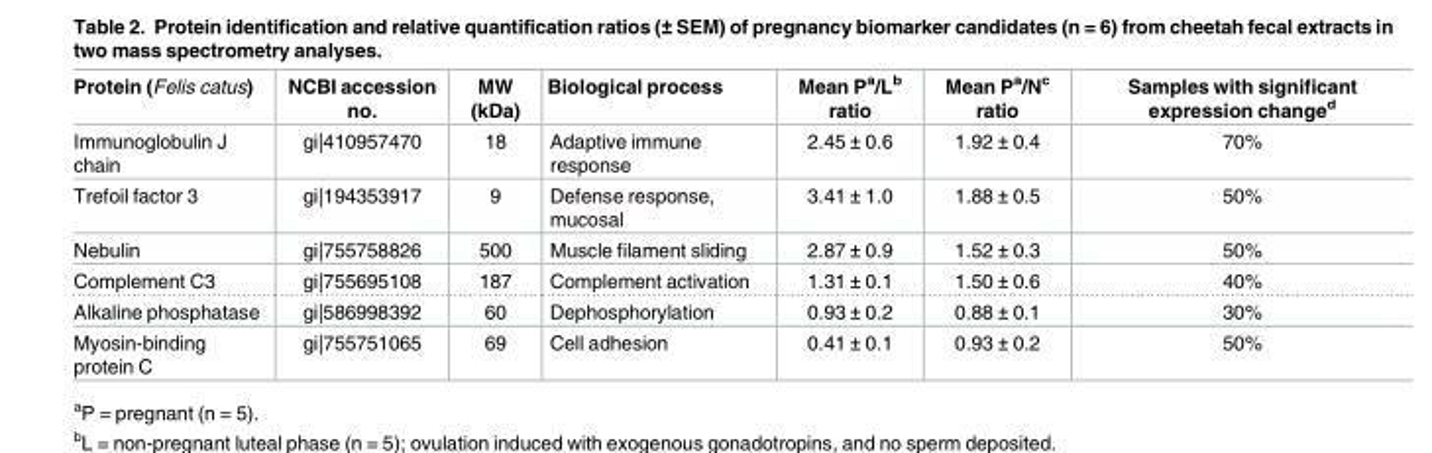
<table><thead><tr><td>Protein (Felis catus)</td><td>NCBI accession no.</td><td>MW (kDa)</td><td>Biological process</td><td>Mean P<sup>a</sup>/L<sup>b</sup> ratio</td><td>Mean P<sup>a</sup>/N<sup>c</sup> ratio</td><td>Samples with significant expression change<sup>d</sup></td></tr></thead><tbody><tr><td>Immunoglobulin J chain</td><td>gi|410957470</td><td>18</td><td>Adaptive immune response</td><td>2.45 ± 0.6</td><td>1.92 ± 0.4</td><td>70%</td></tr><tr><td>Trefoil factor 3</td><td>gi|194353917</td><td>9</td><td>Defense response, mucosal</td><td>3.41 ± 1.0</td><td>1.88 ± 0.5</td><td>50%</td></tr><tr><td>Nebulin</td><td>gi|755758826</td><td>500</td><td>Muscle filament sliding</td><td>2.87 ± 0.9</td><td>1.52 ± 0.3</td><td>50%</td></tr><tr><td>Complement C3</td><td>gi|755695108</td><td>187</td><td>Complement activation</td><td>1.31 ± 0.1</td><td>1.50 ± 0.6</td><td>40%</td></tr><tr><td>Alkaline phosphatase</td><td>gi|586998392</td><td>60</td><td>Dephosphorylation</td><td>0.93 ± 0.2</td><td>0.88 ± 0.1</td><td>30%</td></tr><tr><td>Myosin-binding protein C</td><td>gi|755751065</td><td>69</td><td>Cell adhesion</td><td>0.41 ± 0.1</td><td>0.93 ± 0.2</td><td>50%</td></tr></tbody></table>